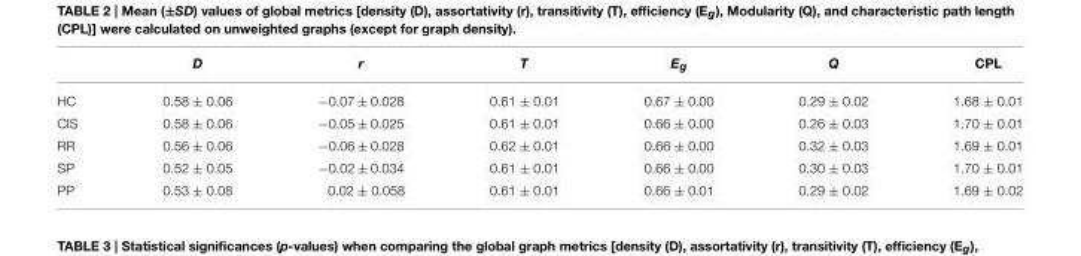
<table><thead><tr><td></td><td>D</td><td>r</td><td>T</td><td>E<sub>g</sub></td><td>Q</td><td>CPL</td></tr></thead><tbody><tr><td>HC</td><td>0.58 ± 0.06</td><td>−0.07 ± 0.028</td><td>0.61 ± 0.01</td><td>0.67 ± 0.00</td><td>0.29 ± 0.02</td><td>1.68 ± 0.01</td></tr><tr><td>CIS</td><td>0.58 ± 0.06</td><td>−0.05 ± 0.025</td><td>0.61 ± 0.01</td><td>0.66 ± 0.00</td><td>0.26 ± 0.03</td><td>1.70 ± 0.01</td></tr><tr><td>RR</td><td>0.56 ± 0.06</td><td>−0.06 ± 0.028</td><td>0.62 ± 0.01</td><td>0.66 ± 0.00</td><td>0.32 ± 0.03</td><td>1.69 ± 0.01</td></tr><tr><td>SP</td><td>0.52 ± 0.05</td><td>−0.02 ± 0.034</td><td>0.61 ± 0.01</td><td>0.66 ± 0.00</td><td>0.30 ± 0.03</td><td>1.70 ± 0.01</td></tr><tr><td>PP</td><td>0.53 ± 0.08</td><td>0.02 ± 0.058</td><td>0.61 ± 0.01</td><td>0.66 ± 0.01</td><td>0.29 ± 0.02</td><td>1.69 ± 0.02</td></tr></tbody></table>